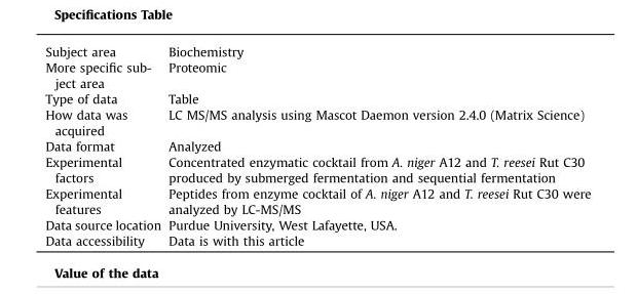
<table><tbody><tr><td>Subject area</td><td>Biochemistry</td></tr><tr><td>More specific sub- ject area</td><td>Proteomic</td></tr><tr><td>Type of data</td><td>Table</td></tr><tr><td>How data was acquired</td><td>LC MS/MS analysis using Mascot Daemon version 2.4.0 (Matrix Science)</td></tr><tr><td>Data format</td><td>Analyzed</td></tr><tr><td>Experimental factors</td><td>Concentrated enzymatic cocktail from A. niger A12 and T. reesei Rut C30 produced by submerged fermentation and sequential fermentation</td></tr><tr><td>Experimental features</td><td>Peptides from enzyme cocktail of A. niger A12 and T. reesei Rut C30 were analyzed by LC-MS/MS</td></tr><tr><td>Data source location</td><td>Purdue University, West Lafayette, USA.</td></tr><tr><td>Data accessibility</td><td>Data is with this article</td></tr></tbody></table>